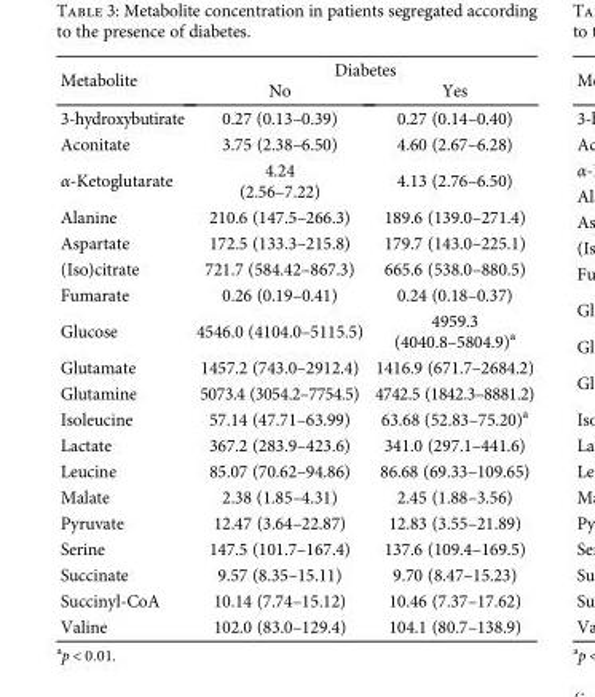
<table><thead><tr><td rowspan="2">Metabolite</td><td colspan="2">Diabetes</td></tr><tr><td>No</td><td>Yes</td></tr></thead><tbody><tr><td>3-hydroxybutirate</td><td>0.27 (0.13–0.39)</td><td>0.27 (0.14–0.40)</td></tr><tr><td>Aconitate</td><td>3.75 (2.38–6.50)</td><td>4.60 (2.67–6.28)</td></tr><tr><td>α-Ketoglutarate</td><td>4.24 (2.56–7.22)</td><td>4.13 (2.76–6.50)</td></tr><tr><td>Alanine</td><td>210.6 (147.5–266.3)</td><td>189.6 (139.0–271.4)</td></tr><tr><td>Aspartate</td><td>172.5 (133.3–215.8)</td><td>179.7 (143.0–225.1)</td></tr><tr><td>(Iso)citrate</td><td>721.7 (584.42–867.3)</td><td>665.6 (538.0–880.5)</td></tr><tr><td>Fumarate</td><td>0.26 (0.19–0.41)</td><td>0.24 (0.18–0.37)</td></tr><tr><td>Glucose</td><td>4546.0 (4104.0–5115.5)</td><td>4959.3 (4040.8–5804.9)<sup>a</sup></td></tr><tr><td>Glutamate</td><td>1457.2 (743.0–2912.4)</td><td>1416.9 (671.7–2684.2)</td></tr><tr><td>Glutamine</td><td>5073.4 (3054.2–7754.5)</td><td>4742.5 (1842.3–8881.2)</td></tr><tr><td>Isoleucine</td><td>57.14 (47.71–63.99)</td><td>63.68 (52.83–75.20)<sup>a</sup></td></tr><tr><td>Lactate</td><td>367.2 (283.9–423.6)</td><td>341.0 (297.1–441.6)</td></tr><tr><td>Leucine</td><td>85.07 (70.62–94.86)</td><td>86.68 (69.33–109.65)</td></tr><tr><td>Malate</td><td>2.38 (1.85–4.31)</td><td>2.45 (1.88–3.56)</td></tr><tr><td>Pyruvate</td><td>12.47 (3.64–22.87)</td><td>12.83 (3.55–21.89)</td></tr><tr><td>Serine</td><td>147.5 (101.7–167.4)</td><td>137.6 (109.4–169.5)</td></tr><tr><td>Succinate</td><td>9.57 (8.35–15.11)</td><td>9.70 (8.47–15.23)</td></tr><tr><td>Succinyl-CoA</td><td>10.14 (7.74–15.12)</td><td>10.46 (7.37–17.62)</td></tr><tr><td>Valine</td><td>102.0 (83.0–129.4)</td><td>104.1 (80.7–138.9)</td></tr></tbody></table>